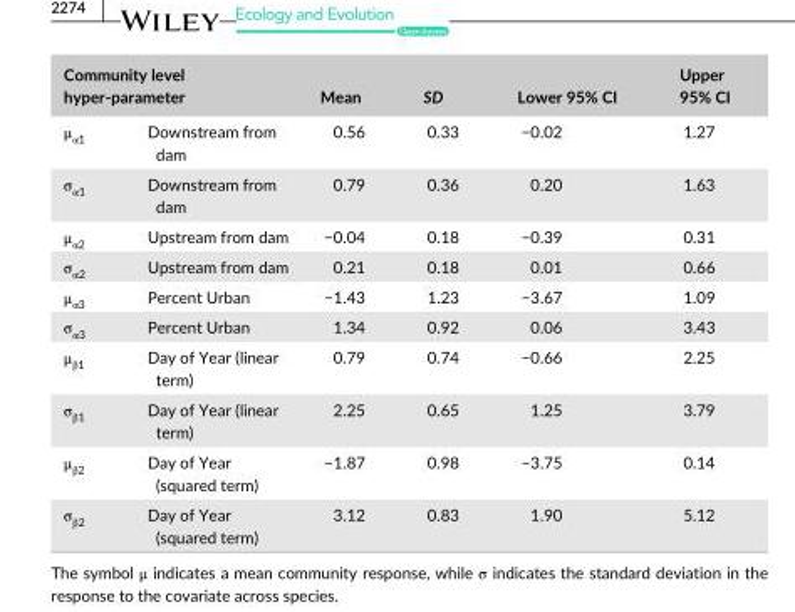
<table><thead><tr><td colspan="2">Community level hyper- parameter</td><td rowspan="2">Mean 0.56</td><td rowspan="2">SD 0.33</td><td rowspan="2">Lower 95% CI −0.02</td><td rowspan="2">Upper 95% CI 1.27</td></tr><tr><td>μ<sub>α1</sub></td><td>Downstream from dam</td></tr></thead><tbody><tr><td>σ<sub>α1</sub></td><td>Downstream from dam</td><td>0.79</td><td>0.36</td><td>0.20</td><td>1.63</td></tr><tr><td>μ<sub>α2</sub></td><td>Upstream from dam</td><td>−0.04</td><td>0.18</td><td>−0.39</td><td>0.31</td></tr><tr><td>σ<sub>α2</sub></td><td>Upstream from dam</td><td>0.21</td><td>0.18</td><td>0.01</td><td>0.66</td></tr><tr><td>μ<sub>α3</sub></td><td>Percent Urban</td><td>−1.43</td><td>1.23</td><td>−3.67</td><td>1.09</td></tr><tr><td>σ<sub>α3</sub></td><td>Percent Urban</td><td>1.34</td><td>0.92</td><td>0.06</td><td>3.43</td></tr><tr><td>μ<sub>β1</sub></td><td>Day of Year (linear term)</td><td>0.79</td><td>0.74</td><td>−0.66</td><td>2.25</td></tr><tr><td>σ<sub>β1</sub></td><td>Day of Year (linear term)</td><td>2.25</td><td>0.65</td><td>1.25</td><td>3.79</td></tr><tr><td>μ<sub>β2</sub></td><td>Day of Year (squared term)</td><td>−1.87</td><td>0.98</td><td>−3.75</td><td>0.14</td></tr><tr><td>σ<sub>β2</sub></td><td>Day of Year (squared term)</td><td>3.12</td><td>0.83</td><td>1.90</td><td>5.12</td></tr></tbody></table>